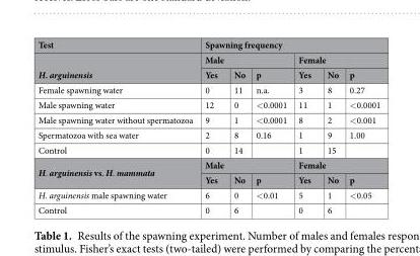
<table><thead><tr><td rowspan="3">Test H. arguinensis</td><td colspan="6">Spawning frequency</td></tr><tr><td colspan="3">Male</td><td colspan="3">Female</td></tr><tr><td>Yes</td><td>No</td><td>p</td><td>Yes</td><td>No</td><td>p</td></tr></thead><tbody><tr><td>Female spawning water</td><td>0</td><td>11</td><td>n.a.</td><td>3</td><td>8</td><td>0.27</td></tr><tr><td>Male spawning water</td><td>12</td><td>0</td><td>&lt;0.0001</td><td>11</td><td>1</td><td>&lt;0.0001</td></tr><tr><td>Male spawning water without spermatozoa</td><td>9</td><td>1</td><td>&lt;0.0001</td><td>8</td><td>2</td><td>&lt;0.001</td></tr><tr><td>Spermatozoa with sea water</td><td>2</td><td>8</td><td>0.16</td><td>1</td><td>9</td><td>1.00</td></tr><tr><td>Control</td><td>0</td><td>14</td><td></td><td>1</td><td>15</td><td></td></tr><tr><td rowspan="2">H. arguinensis vs. H. mammata</td><td colspan="3">Male</td><td colspan="3">Female</td></tr><tr><td>Yes</td><td>No</td><td>p</td><td>Yes</td><td>No</td><td>p</td></tr><tr><td>H. arguinensis male spawning water</td><td>6</td><td>0</td><td>&lt;0.01</td><td>5</td><td>1</td><td>&lt;0.05</td></tr><tr><td>Control</td><td>0</td><td>6</td><td></td><td>0</td><td>6</td><td></td></tr></tbody></table>